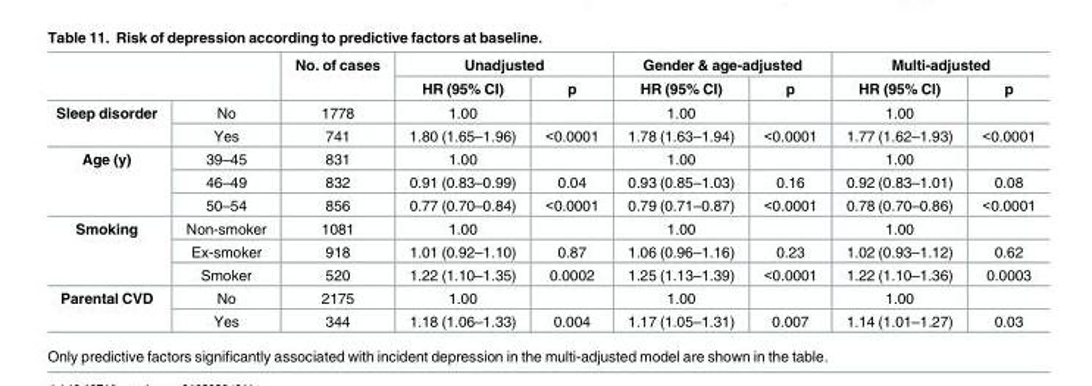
<table><thead><tr><td rowspan="2"></td><td rowspan="2"></td><td rowspan="2">No. of cases</td><td colspan="2">Unadjusted</td><td colspan="2">Gender &amp; age-adjusted</td><td colspan="2">Multi-adjusted</td></tr><tr><td>HR (95% CI)</td><td>p</td><td>HR (95% CI)</td><td>p</td><td>HR (95% CI)</td><td>p</td></tr></thead><tbody><tr><td rowspan="2">Sleep disorder</td><td>No</td><td>1778</td><td>1.00</td><td></td><td>1.00</td><td></td><td>1.00</td><td></td></tr><tr><td>Yes</td><td>741</td><td>1.80 (1.65–1.96)</td><td>&lt;0.0001</td><td>1.78 (1.63–1.94)</td><td>&lt;0.0001</td><td>1.77 (1.62–1.93)</td><td>&lt;0.0001</td></tr><tr><td rowspan="3">Age (y)</td><td>39–45</td><td>831</td><td>1.00</td><td></td><td>1.00</td><td></td><td>1.00</td><td></td></tr><tr><td>46–49</td><td>832</td><td>0.91 (0.83–0.99)</td><td>0.04</td><td>0.93 (0.85–1.03)</td><td>0.16</td><td>0.92 (0.83–1.01)</td><td>0.08</td></tr><tr><td>50–54</td><td>856</td><td>0.77 (0.70–0.84)</td><td>&lt;0.0001</td><td>0.79 (0.71–0.87)</td><td>&lt;0.0001</td><td>0.78 (0.70–0.86)</td><td>&lt;0.0001</td></tr><tr><td rowspan="3">Smoking</td><td>Non-smoker</td><td>1081</td><td>1.00</td><td></td><td>1.00</td><td></td><td>1.00</td><td></td></tr><tr><td>Ex-smoker</td><td>918</td><td>1.01 (0.92–1.10)</td><td>0.87</td><td>1.06 (0.96–1.16)</td><td>0.23</td><td>1.02 (0.93–1.12)</td><td>0.62</td></tr><tr><td>Smoker</td><td>520</td><td>1.22 (1.10–1.35)</td><td>0.0002</td><td>1.25 (1.13–1.39)</td><td>&lt;0.0001</td><td>1.22 (1.10–1.36)</td><td>0.0003</td></tr><tr><td rowspan="2">Parental CVD</td><td>No</td><td>2175</td><td>1.00</td><td></td><td>1.00</td><td></td><td>1.00</td><td></td></tr><tr><td>Yes</td><td>344</td><td>1.18 (1.06–1.33)</td><td>0.004</td><td>1.17 (1.05–1.31)</td><td>0.007</td><td>1.14 (1.01–1.27)</td><td>0.03</td></tr></tbody></table>